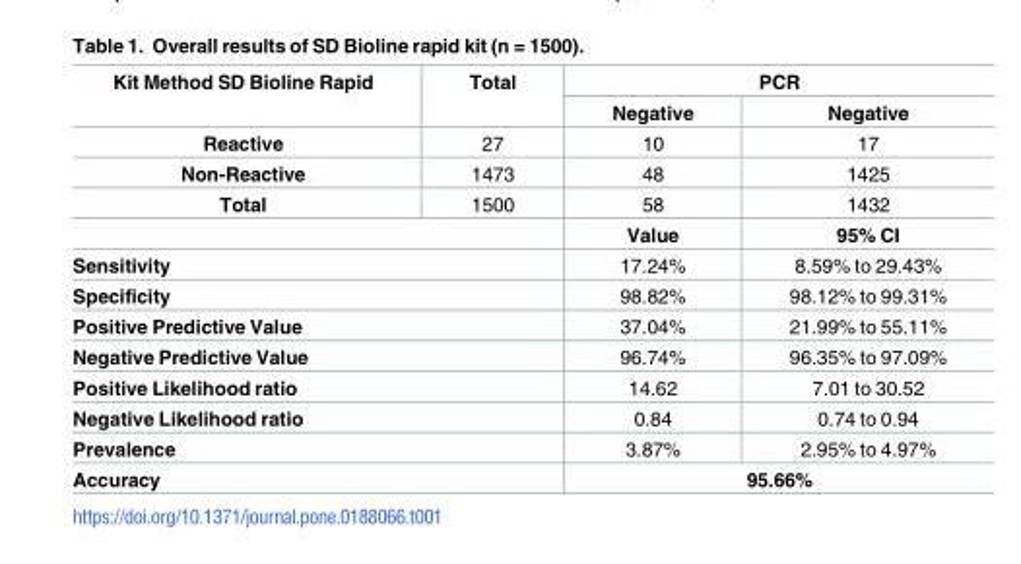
<table><thead><tr><td rowspan="2">Kit Method SD Bioline Rapid</td><td rowspan="2">Total</td><td colspan="2">PCR</td></tr><tr><td>Negative</td><td>Negative</td></tr></thead><tbody><tr><td>Reactive</td><td>27</td><td>10</td><td>17</td></tr><tr><td>Non-Reactive</td><td>1473</td><td>48</td><td>1425</td></tr><tr><td>Total</td><td>1500</td><td>58</td><td>1432</td></tr><tr><td colspan="2"></td><td>Value</td><td>95% CI</td></tr><tr><td colspan="2">Sensitivity</td><td>17.24%</td><td>8.59% to 29.43%</td></tr><tr><td colspan="2">Specificity</td><td>98.82%</td><td>98.12% to 99.31%</td></tr><tr><td colspan="2">Positive Predictive Value</td><td>37.04%</td><td>21.99% to 55.11%</td></tr><tr><td colspan="2">Negative Predictive Value</td><td>96.74%</td><td>96.35% to 97.09%</td></tr><tr><td colspan="2">Positive Likelihood ratio</td><td>14.62</td><td>7.01 to 30.52</td></tr><tr><td colspan="2">Negative Likelihood ratio</td><td>0.84</td><td>0.74 to 0.94</td></tr><tr><td colspan="2">Prevalence</td><td>3.87%</td><td>2.95% to 4.97%</td></tr><tr><td colspan="2">Accuracy</td><td colspan="2">95.66%</td></tr></tbody></table>